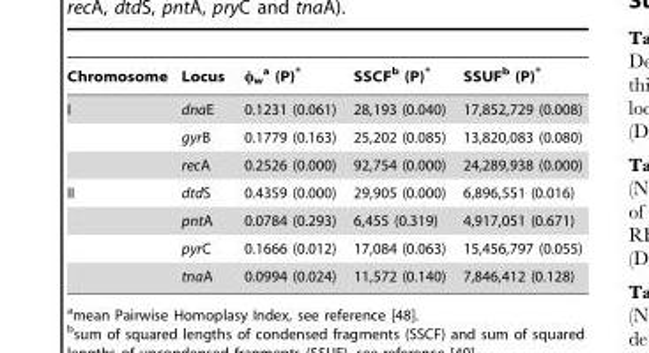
<table><thead><tr><td>Chromosome</td><td>Locus</td><td>φ<sub>w</sub> a (P)*</td><td>SSCF<sup>b</sup> (P)*</td><td>SSUF<sup>b</sup> (P)*</td></tr></thead><tbody><tr><td rowspan="3">I</td><td>dnaE</td><td>0.1231 (0.061)</td><td>28,193 (0.040)</td><td>17,852,729 (0.008)</td></tr><tr><td>gyrB</td><td>0.1779 (0.163)</td><td>25,202 (0.085)</td><td>13,820,083 (0.080)</td></tr><tr><td>recA</td><td>0.2526 (0.000)</td><td>92,754 (0.000)</td><td>24,289,938 (0.000)</td></tr><tr><td rowspan="4">II</td><td>dtdS</td><td>0.4359 (0.000)</td><td>29,905 (0.000)</td><td>6,896,551 (0.016)</td></tr><tr><td>pntA</td><td>0.0784 (0.293)</td><td>6,455 (0.319)</td><td>4,917,051 (0.671)</td></tr><tr><td>pyrC</td><td>0.1666 (0.012)</td><td>17,084 (0.063)</td><td>15,456,797 (0.055)</td></tr><tr><td>tnaA</td><td>0.0994 (0.024)</td><td>11,572 (0.140)</td><td>7,846,412 (0.128)</td></tr></tbody></table>